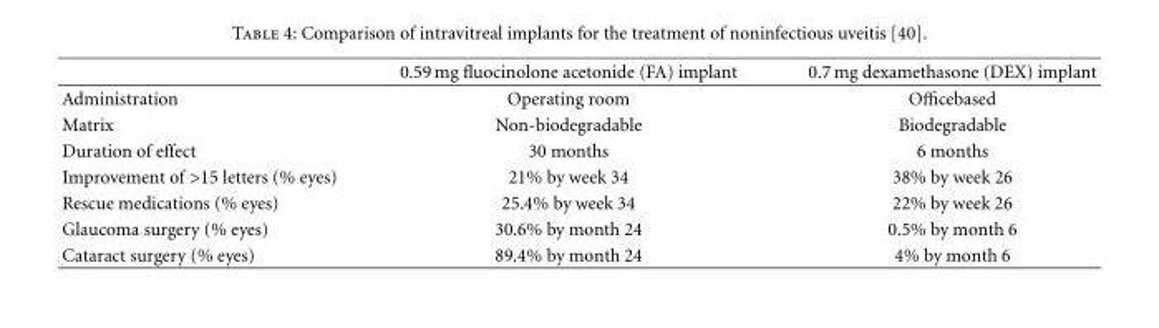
<table><thead><tr><td></td><td>0.59 mg fluocinolone acetonide (FA) implant</td><td>0.7 mg dexamethasone (DEX) implant</td></tr></thead><tbody><tr><td>Administration</td><td>Operating room</td><td>Officebased</td></tr><tr><td>Matrix</td><td>Non-biodegradable</td><td>Biodegradable</td></tr><tr><td>Duration of effect</td><td>30 months</td><td>6 months</td></tr><tr><td>Improvement of &gt;15 letters (% eyes)</td><td>21% by week 34</td><td>38% by week 26</td></tr><tr><td>Rescue medications (% eyes)</td><td>25.4% by week 34</td><td>22% by week 26</td></tr><tr><td>Glaucoma surgery (% eyes)</td><td>30.6% by month 24</td><td>0.5% by month 6</td></tr><tr><td>Cataract surgery (% eyes)</td><td>89.4% by month 24</td><td>4% by month 6</td></tr></tbody></table>